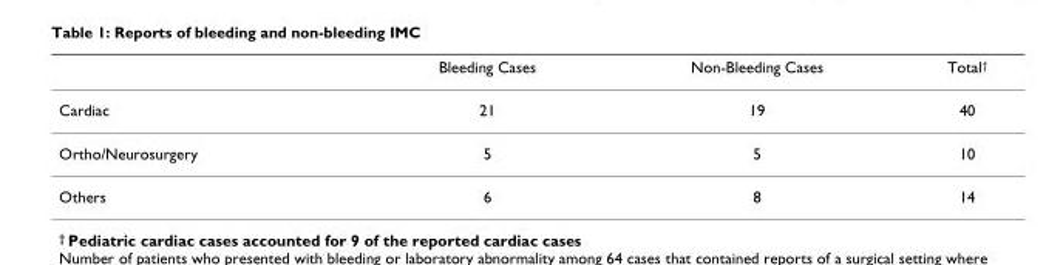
<table><thead><tr><td></td><td>Bleeding Cases</td><td>Non-Bleeding Cases</td><td>Total<sup>†</sup></td></tr></thead><tbody><tr><td>Cardiac</td><td>21</td><td>19</td><td>40</td></tr><tr><td>Ortho/Neurosurgery</td><td>5</td><td>5</td><td>10</td></tr><tr><td>Others</td><td>6</td><td>8</td><td>14</td></tr></tbody></table>